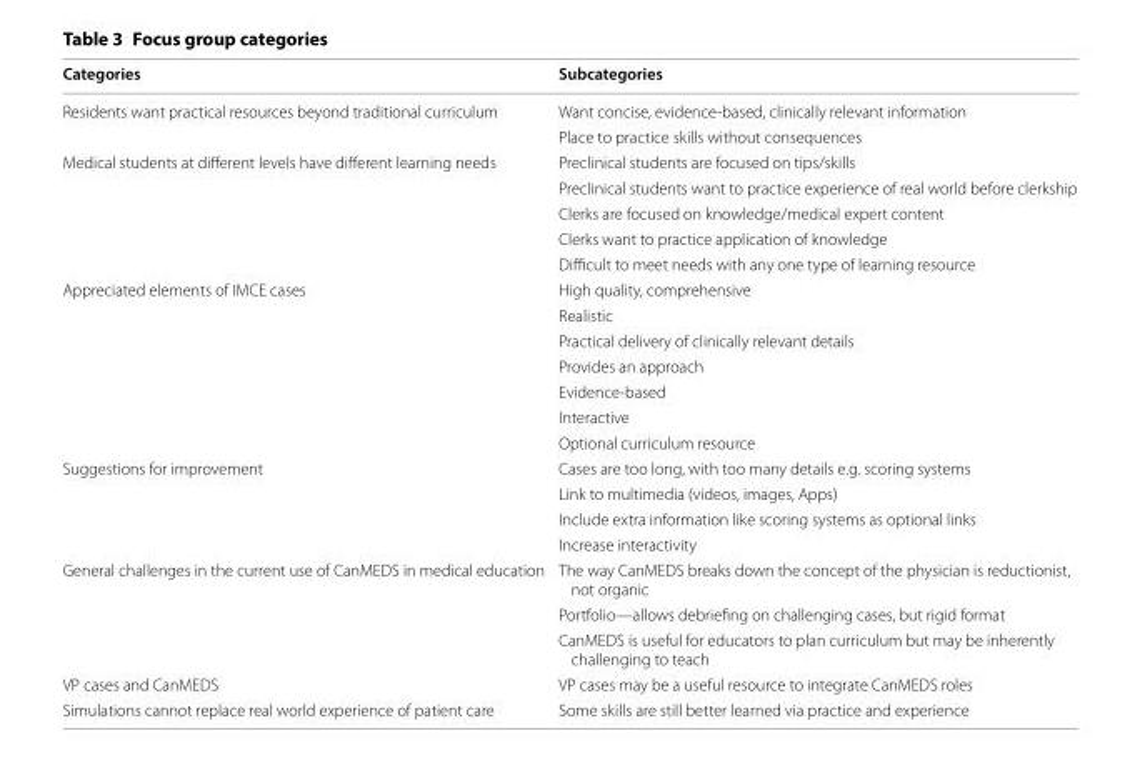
<table><thead><tr><td>Categories</td><td>Subcategories</td></tr></thead><tbody><tr><td rowspan="2">Residents want practical resources beyond traditional curriculum</td><td>Want concise, evidence-based, clinically relevant information</td></tr><tr><td>Place to practice skills without consequences</td></tr><tr><td rowspan="5">Medical students at different levels have different learning needs</td><td>Preclinical students are focused on tips/skills</td></tr><tr><td>Preclinical students want to practice experience of real world before clerkship</td></tr><tr><td>Clerks are focused on knowledge/medical expert content</td></tr><tr><td>Clerks want to practice application of knowledge</td></tr><tr><td>Difficult to meet needs with any one type of learning resource</td></tr><tr><td rowspan="7">Appreciated elements of IMCE cases</td><td>High quality, comprehensive</td></tr><tr><td>Realistic</td></tr><tr><td>Practical delivery of clinically relevant details</td></tr><tr><td>Provides an approach</td></tr><tr><td>Evidence-based</td></tr><tr><td>Interactive</td></tr><tr><td>Optional curriculum resource</td></tr><tr><td rowspan="4">Suggestions for improvement</td><td>Cases are too long, with too many details e.g. scoring systems</td></tr><tr><td>Link to multimedia (videos, images, Apps)</td></tr><tr><td>Include extra information like scoring systems as optional links</td></tr><tr><td>Increase interactivity</td></tr><tr><td rowspan="3">General challenges in the current use of CanMEDS in medical education</td><td>The way CanMEDS breaks down the concept of the physician is reductionist, not organic</td></tr><tr><td>Portfolio—allows debriefing on challenging cases, but rigid format</td></tr><tr><td>CanMEDS is useful for educators to plan curriculum but may be inherently challenging to teach</td></tr><tr><td>VP cases and CanMEDS</td><td>VP cases may be a useful resource to integrate CanMEDS roles</td></tr><tr><td>Simulations cannot replace real world experience of patient care</td><td>Some skills are still better learned via practice and experience</td></tr></tbody></table>